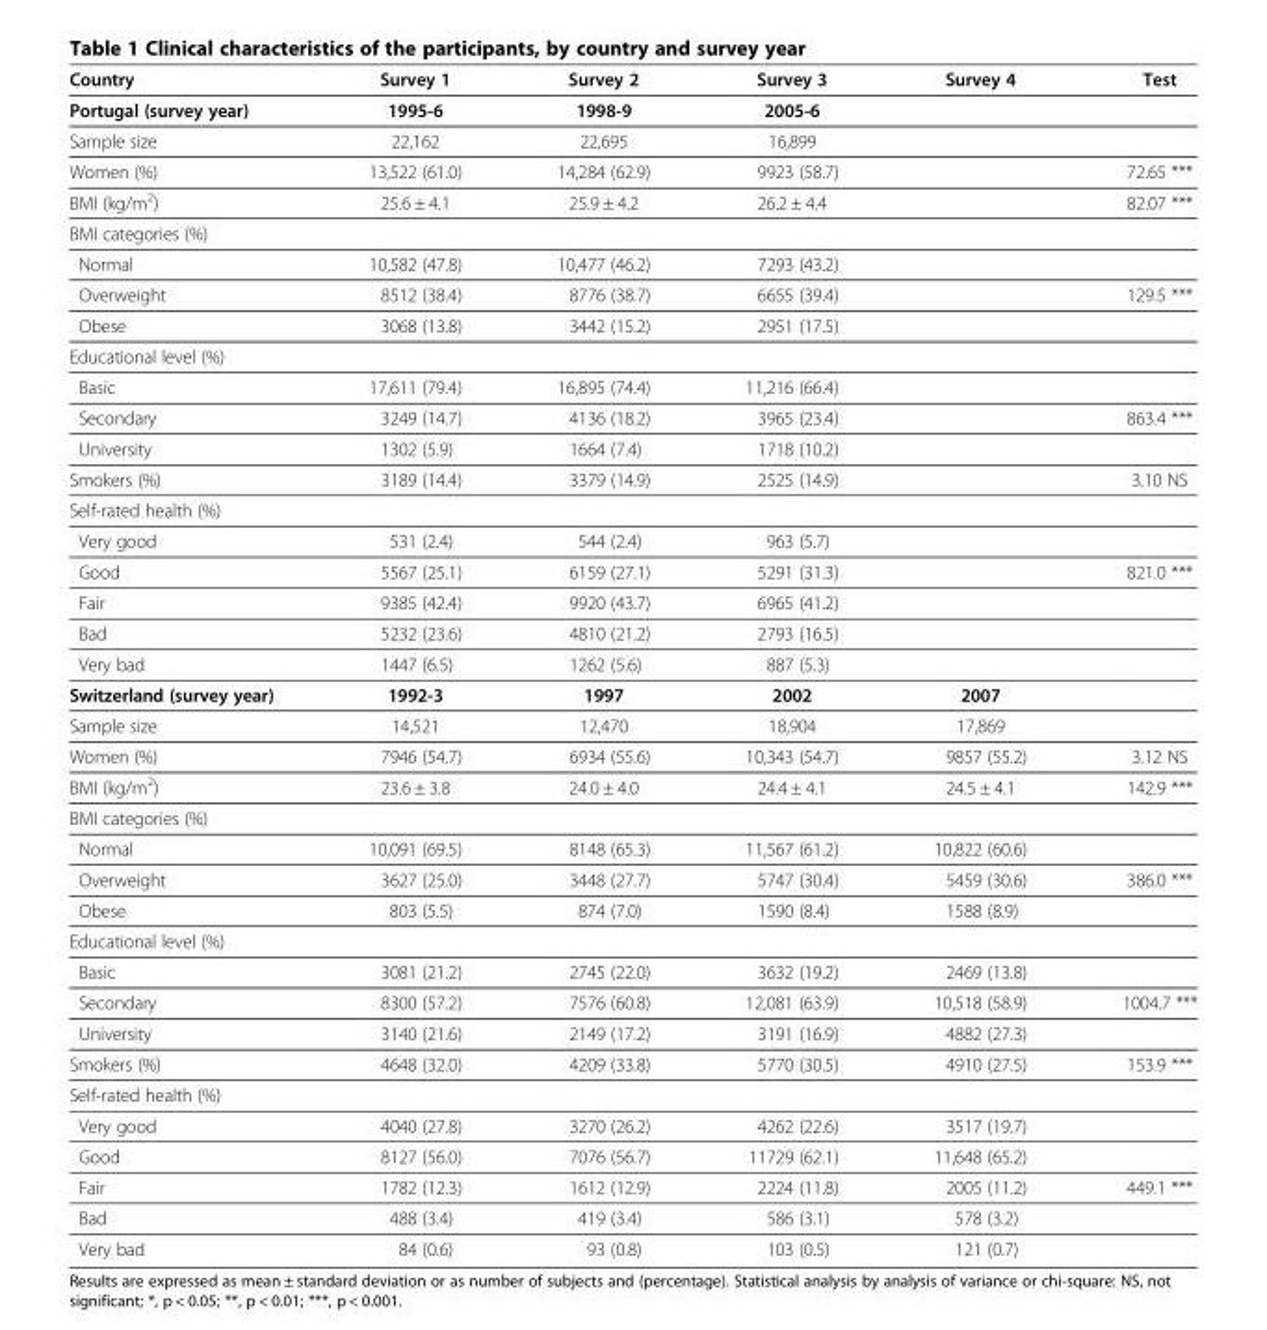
<table><thead><tr><td>Country</td><td>Survey 1</td><td>Survey 2</td><td>Survey 3</td><td>Survey 4</td><td>Test</td></tr></thead><tbody><tr><td>Portugal (survey year)</td><td>1995-6</td><td>1998-9</td><td>2005-6</td><td></td><td></td></tr><tr><td>Sample size</td><td>22,162</td><td>22,695</td><td>16,899</td><td></td><td></td></tr><tr><td>Women (%)</td><td>13,522 (61.0)</td><td>14,284 (62.9)</td><td>9923 (58.7)</td><td></td><td>72.65 ***</td></tr><tr><td>BMI (kg/m<sup>2</sup>)</td><td>25.6 ± 4.1</td><td>25.9 ± 4.2</td><td>26.2 ± 4.4</td><td></td><td>82.07 ***</td></tr><tr><td colspan="6">BMI categories (%)</td></tr><tr><td>Normal</td><td>10,582 (47.8)</td><td>10,477 (46.2)</td><td>7293 (43.2)</td><td></td><td></td></tr><tr><td>Overweight</td><td>8512 (38.4)</td><td>8776 (38.7)</td><td>6655 (39.4)</td><td></td><td>129.5 ***</td></tr><tr><td>Obese</td><td>3068 (13.8)</td><td>3442 (15.2)</td><td>2951 (17.5)</td><td></td><td></td></tr><tr><td colspan="6">Educational level (%)</td></tr><tr><td>Basic</td><td>17,611 (79.4)</td><td>16,895 (74.4)</td><td>11,216 (66.4)</td><td></td><td></td></tr><tr><td>Secondary</td><td>3249 (14.7)</td><td>4136 (18.2)</td><td>3965 (23.4)</td><td></td><td>863.4 ***</td></tr><tr><td>University</td><td>1302 (5.9)</td><td>1664 (7.4)</td><td>1718 (10.2)</td><td></td><td></td></tr><tr><td>Smokers (%)</td><td>3189 (14.4)</td><td>3379 (14.9)</td><td>2525 (14.9)</td><td></td><td>3.10 NS</td></tr><tr><td colspan="6">Self-rated health (%)</td></tr><tr><td>Very good</td><td>531 (2.4)</td><td>544 (2.4)</td><td>963 (5.7)</td><td></td><td></td></tr><tr><td>Good</td><td>5567 (25.1)</td><td>6159 (27.1)</td><td>5291 (31.3)</td><td></td><td>821.0 ***</td></tr><tr><td>Fair</td><td>9385 (42.4)</td><td>9920 (43.7)</td><td>6965 (41.2)</td><td></td><td></td></tr><tr><td>Bad</td><td>5232 (23.6)</td><td>4810 (21.2)</td><td>2793 (16.5)</td><td></td><td></td></tr><tr><td>Very bad</td><td>1447 (6.5)</td><td>1262 (5.6)</td><td>887 (5.3)</td><td></td><td></td></tr><tr><td>Switzerland (survey year)</td><td>1992-3</td><td>1997</td><td>2002</td><td>2007</td><td></td></tr><tr><td>Sample size</td><td>14,521</td><td>12,470</td><td>18,904</td><td>17,869</td><td></td></tr><tr><td>Women (%)</td><td>7946 (54.7)</td><td>6934 (55.6)</td><td>10,343 (54.7)</td><td>9857 (55.2)</td><td>3.12 NS</td></tr><tr><td>BMI (kg/m<sup>2</sup>)</td><td>23.6 ± 3.8</td><td>24.0 ± 4.0</td><td>24.4 ± 4.1</td><td>24.5 ± 4.1</td><td>142.9 ***</td></tr><tr><td colspan="6">BMI categories (%)</td></tr><tr><td>Normal</td><td>10,091 (69.5)</td><td>8148 (65.3)</td><td>11,567 (61.2)</td><td>10,822 (60.6)</td><td></td></tr><tr><td>Overweight</td><td>3627 (25.0)</td><td>3448 (27.7)</td><td>5747 (30.4)</td><td>5459 (30.6)</td><td>386.0 ***</td></tr><tr><td>Obese</td><td>803 (5.5)</td><td>874 (7.0)</td><td>1590 (8.4)</td><td>1588 (8.9)</td><td></td></tr><tr><td colspan="6">Educational level (%)</td></tr><tr><td>Basic</td><td>3081 (21.2)</td><td>2745 (22.0)</td><td>3632 (19.2)</td><td>2469 (13.8)</td><td></td></tr><tr><td>Secondary</td><td>8300 (57.2)</td><td>7576 (60.8)</td><td>12,081 (63.9)</td><td>10,518 (58.9)</td><td>1004.7 ***</td></tr><tr><td>University</td><td>3140 (21.6)</td><td>2149 (17.2)</td><td>3191 (16.9)</td><td>4882 (27.3)</td><td></td></tr><tr><td>Smokers (%)</td><td>4648 (32.0)</td><td>4209 (33.8)</td><td>5770 (30.5)</td><td>4910 (27.5)</td><td>153.9 ***</td></tr><tr><td colspan="6">Self-rated health (%)</td></tr><tr><td>Very good</td><td>4040 (27.8)</td><td>3270 (26.2)</td><td>4262 (22.6)</td><td>3517 (19.7)</td><td></td></tr><tr><td>Good</td><td>8127 (56.0)</td><td>7076 (56.7)</td><td>11729 (62.1)</td><td>11,648 (65.2)</td><td></td></tr><tr><td>Fair</td><td>1782 (12.3)</td><td>1612 (12.9)</td><td>2224 (11.8)</td><td>2005 (11.2)</td><td>449.1 ***</td></tr><tr><td>Bad</td><td>488 (3.4)</td><td>419 (3.4)</td><td>586 (3.1)</td><td>578 (3.2)</td><td></td></tr><tr><td>Very bad</td><td>84 (0.6)</td><td>93 (0.8)</td><td>103 (0.5)</td><td>121 (0.7)</td><td></td></tr></tbody></table>